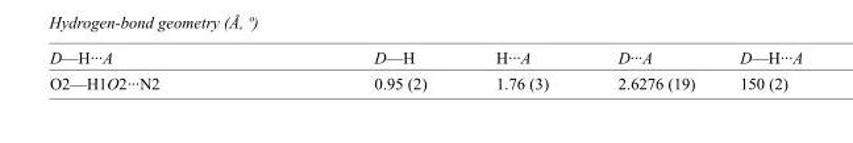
<table><tbody><tr><td>D—H···A</td><td>D—H</td><td>H···A</td><td>D···A</td><td>D—H···A</td></tr><tr><td>O2—H1O2···N2</td><td>0.95 (2)</td><td>1.76 (3)</td><td>2.6276 (19)</td><td>150 (2)</td></tr></tbody></table>